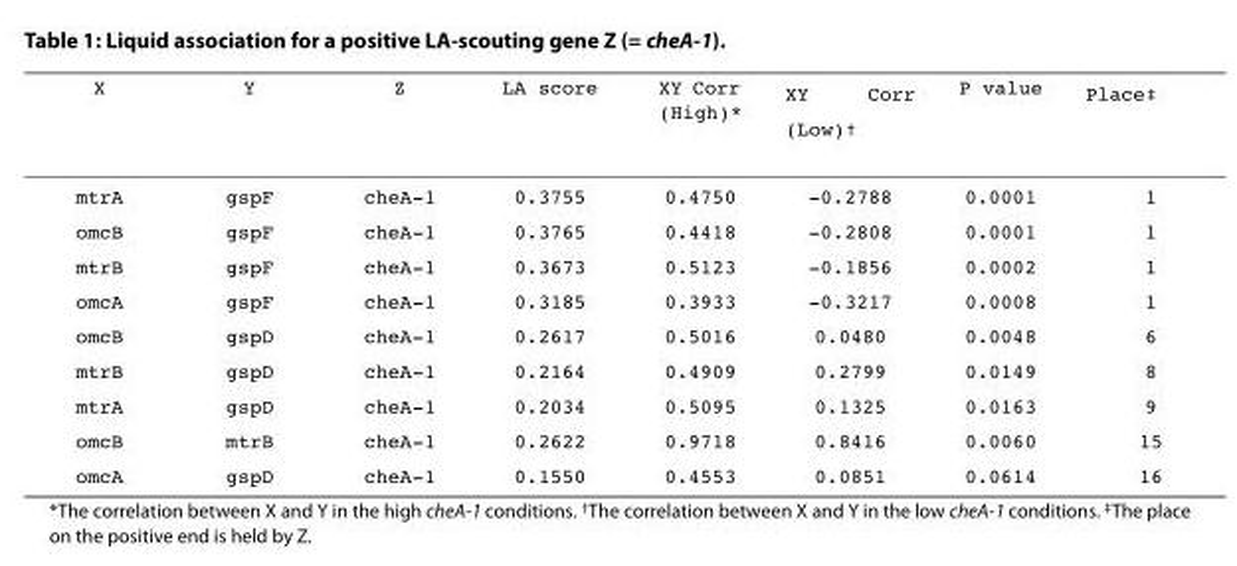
<table><thead><tr><td>X</td><td>Y</td><td>Z</td><td>LA score</td><td>XY Corr (High)*</td><td>XY Corr (Low)<sup>†</sup></td><td>P value</td><td>Place<sup>‡</sup></td></tr></thead><tbody><tr><td>mtrA</td><td>gspF</td><td>cheA-1</td><td>0.3755</td><td>0.4750</td><td>-0.2788</td><td>0.0001</td><td>1</td></tr><tr><td>omcB</td><td>gspF</td><td>cheA-1</td><td>0.3765</td><td>0.4418</td><td>-0.2808</td><td>0.0001</td><td>1</td></tr><tr><td>mtrB</td><td>gspF</td><td>cheA-1</td><td>0.3673</td><td>0.5123</td><td>-0.1856</td><td>0.0002</td><td>1</td></tr><tr><td>omcA</td><td>gspF</td><td>cheA-1</td><td>0.3185</td><td>0.3933</td><td>-0.3217</td><td>0.0008</td><td>1</td></tr><tr><td>omcB</td><td>gspD</td><td>cheA-1</td><td>0.2617</td><td>0.5016</td><td>0.0480</td><td>0.0048</td><td>6</td></tr><tr><td>mtrB</td><td>gspD</td><td>cheA-1</td><td>0.2164</td><td>0.4909</td><td>0.2799</td><td>0.0149</td><td>8</td></tr><tr><td>mtrA</td><td>gspD</td><td>cheA-1</td><td>0.2034</td><td>0.5095</td><td>0.1325</td><td>0.0163</td><td>9</td></tr><tr><td>omcB</td><td>mtrB</td><td>cheA-1</td><td>0.2622</td><td>0.9718</td><td>0.8416</td><td>0.0060</td><td>15</td></tr><tr><td>omcA</td><td>gspD</td><td>cheA-1</td><td>0.1550</td><td>0.4553</td><td>0.0851</td><td>0.0614</td><td>16</td></tr></tbody></table>